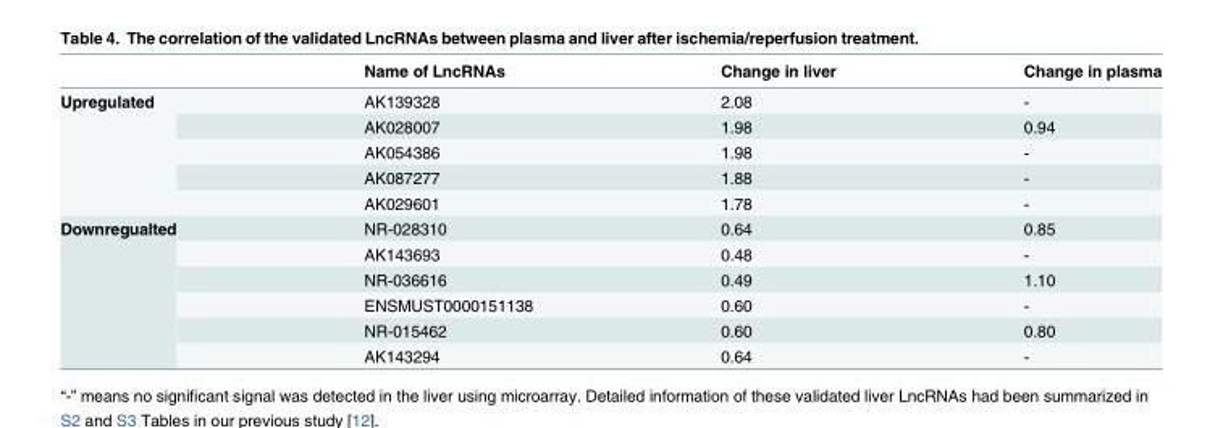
<table><thead><tr><td></td><td>Name of LncRNAs</td><td>Change in liver</td><td>Change in plasma</td></tr></thead><tbody><tr><td rowspan="5">Upregulated</td><td>AK139328</td><td>2.08</td><td>-</td></tr><tr><td>AK028007</td><td>1.98</td><td>0.94</td></tr><tr><td>AK054386</td><td>1.98</td><td>-</td></tr><tr><td>AK087277</td><td>1.88</td><td>-</td></tr><tr><td>AK029601</td><td>1.78</td><td>-</td></tr><tr><td rowspan="6">Downregualted</td><td>NR-028310</td><td>0.64</td><td>0.85</td></tr><tr><td>AK143693</td><td>0.48</td><td>-</td></tr><tr><td>NR-036616</td><td>0.49</td><td>1.10</td></tr><tr><td>ENSMUST0000151138</td><td>0.60</td><td>-</td></tr><tr><td>NR-015462</td><td>0.60</td><td>0.80</td></tr><tr><td>AK143294</td><td>0.64</td><td>-</td></tr></tbody></table>